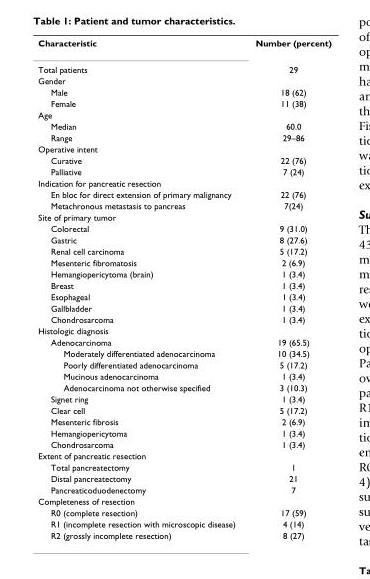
<table><thead><tr><td>Characteristic</td><td>Number (percent)</td></tr></thead><tbody><tr><td>Total patients</td><td>29</td></tr><tr><td colspan="2">Gender</td></tr><tr><td>Male</td><td>18 (62)</td></tr><tr><td>Female</td><td>11 (38)</td></tr><tr><td colspan="2">Age</td></tr><tr><td>Median</td><td>60.0</td></tr><tr><td>Range</td><td>29–86</td></tr><tr><td colspan="2">Operative intent</td></tr><tr><td>Curative</td><td>22 (76)</td></tr><tr><td>Palliative</td><td>7 (24)</td></tr><tr><td colspan="2">Indication for pancreatic resection</td></tr><tr><td>En bloc for direct extension of primary malignancy</td><td>22 (76)</td></tr><tr><td>Metachronous metastasis to pancreas</td><td>7(24)</td></tr><tr><td colspan="2">Site of primary tumor</td></tr><tr><td>Colorectal</td><td>9 (31.0)</td></tr><tr><td>Gastric</td><td>8 (27.6)</td></tr><tr><td>Renal cell carcinoma</td><td>5 (17.2)</td></tr><tr><td>Mesenteric fibromatosis</td><td>2 (6.9)</td></tr><tr><td>Hemangiopericytoma (brain)</td><td>1 (3.4)</td></tr><tr><td>Breast</td><td>1 (3.4)</td></tr><tr><td>Esophageal</td><td>1 (3.4)</td></tr><tr><td>Gallbladder</td><td>1 (3.4)</td></tr><tr><td>Chondrosarcoma</td><td>1 (3.4)</td></tr><tr><td colspan="2">Histologic diagnosis</td></tr><tr><td>Adenocarcinoma</td><td>19 (65.5)</td></tr><tr><td>Moderately differentiated adenocarcinoma</td><td>10 (34.5)</td></tr><tr><td>Poorly differentiated adenocarcinoma</td><td>5 (17.2)</td></tr><tr><td>Mucinous adenocarcinoma</td><td>1 (3.4)</td></tr><tr><td>Adenocarcinoma not otherwise specified</td><td>3 (10.3)</td></tr><tr><td>Signet ring</td><td>1 (3.4)</td></tr><tr><td>Clear cell</td><td>5 (17.2)</td></tr><tr><td>Mesenteric fibrosis</td><td>2 (6.9)</td></tr><tr><td>Hemangiopericytoma</td><td>1 (3.4)</td></tr><tr><td>Chondrosarcoma</td><td>1 (3.4)</td></tr><tr><td colspan="2">Extent of pancreatic resection</td></tr><tr><td>Total pancreatectomy</td><td>1</td></tr><tr><td>Distal pancreatectomy</td><td>21</td></tr><tr><td>Pancreaticoduodenectomy</td><td>7</td></tr><tr><td colspan="2">Completeness of resection</td></tr><tr><td>R0 (complete resection)</td><td>17 (59)</td></tr><tr><td>R1 (incomplete resection with microscopic disease)</td><td>4 (14)</td></tr><tr><td>R2 (grossly incomplete resection)</td><td>8 (27)</td></tr></tbody></table>